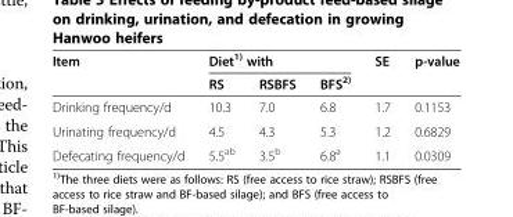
<table><thead><tr><td rowspan="2">Item</td><td colspan="3">Diet<sup>1)</sup> with</td><td rowspan="2">SE</td><td rowspan="2">p-value</td></tr><tr><td>RS</td><td>RSBFS</td><td>BFS<sup>2)</sup></td></tr></thead><tbody><tr><td>Drinking frequency/d</td><td>10.3</td><td>7.0</td><td>6.8</td><td>1.7</td><td>0.1153</td></tr><tr><td>Urinating frequency/d</td><td>4.5</td><td>4.3</td><td>5.3</td><td>1.2</td><td>0.6829</td></tr><tr><td>Defecating frequency/d</td><td>5.5<sup>ab</sup></td><td>3.5<sup>b</sup></td><td>6.8<sup>a</sup></td><td>1.1</td><td>0.0309</td></tr></tbody></table>